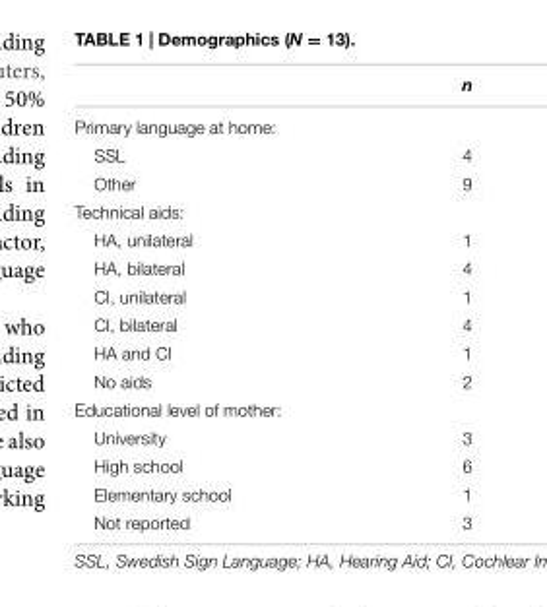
<table><thead><tr><td></td><td>n</td></tr></thead><tbody><tr><td colspan="2">Primary language at home:</td></tr><tr><td>SSL</td><td>4</td></tr><tr><td>Other</td><td>9</td></tr><tr><td colspan="2">Technical aids:</td></tr><tr><td>HA, unilateral</td><td>1</td></tr><tr><td>HA, bilateral</td><td>4</td></tr><tr><td>CI, unilateral</td><td>1</td></tr><tr><td>CI, bilateral</td><td>4</td></tr><tr><td>HA and CI</td><td>1</td></tr><tr><td>No aids</td><td>2</td></tr><tr><td colspan="2">Educational level of mother:</td></tr><tr><td>University</td><td>3</td></tr><tr><td>High school</td><td>6</td></tr><tr><td>Elementary school</td><td>1</td></tr><tr><td>Not reported</td><td>3</td></tr></tbody></table>